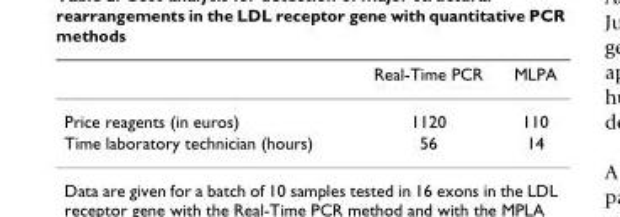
<table><thead><tr><td></td><td>Real-Time PCR</td><td>MLPA</td></tr></thead><tbody><tr><td>Price reagents (in euros)</td><td>1120</td><td>110</td></tr><tr><td>Time laboratory technician (hours)</td><td>56</td><td>14</td></tr></tbody></table>